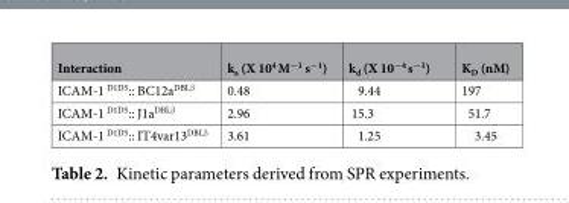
<table><thead><tr><td>Interaction</td><td>k<sub>a</sub> (X 10<sup>4</sup> M<sup>−1</sup> s<sup>−1</sup>)</td><td>k<sub>d</sub> (X 10<sup>−4</sup> s<sup>−1</sup>)</td><td>K<sub>D</sub> (nM)</td></tr></thead><tbody><tr><td>ICAM-1 <sup>D1D5</sup>:: BC12a<sup>DBLβ</sup></td><td>0.48</td><td>9.44</td><td>197</td></tr><tr><td>ICAM-1 <sup>D1D5</sup>:: J1a<sup>DBLβ</sup></td><td>2.96</td><td>15.3</td><td>51.7</td></tr><tr><td>ICAM-1 <sup>D1D5</sup>:: IT4var13<sup>DBLβ</sup></td><td>3.61</td><td>1.25</td><td>3.45</td></tr></tbody></table>